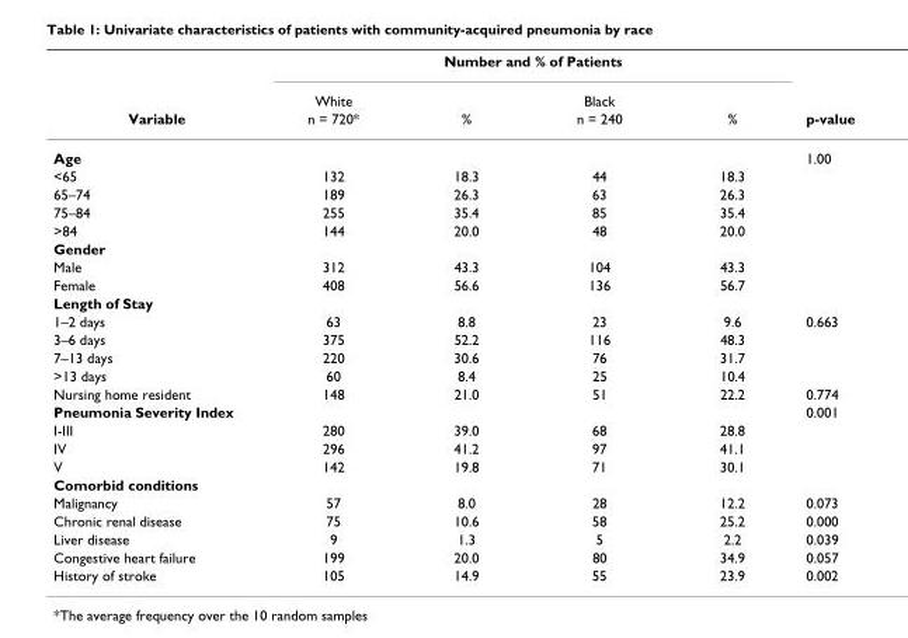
<table><thead><tr><td rowspan="3">Variable</td><td colspan="4">Number and % of Patients</td><td rowspan="3">p-value</td></tr><tr><td rowspan="2">White n = 720*</td><td rowspan="2">%</td><td rowspan="2">Black n = 240</td><td rowspan="2">%</td></tr><tr></tr></thead><tbody><tr><td>Age</td><td></td><td></td><td></td><td></td><td>1.00</td></tr><tr><td>&lt;65</td><td>132</td><td>18.3</td><td>44</td><td>18.3</td><td></td></tr><tr><td>65–74</td><td>189</td><td>26.3</td><td>63</td><td>26.3</td><td></td></tr><tr><td>75–84</td><td>255</td><td>35.4</td><td>85</td><td>35.4</td><td></td></tr><tr><td>&gt;84</td><td>144</td><td>20.0</td><td>48</td><td>20.0</td><td></td></tr><tr><td colspan="6">Gender</td></tr><tr><td>Male</td><td>312</td><td>43.3</td><td>104</td><td>43.3</td><td></td></tr><tr><td>Female</td><td>408</td><td>56.6</td><td>136</td><td>56.7</td><td></td></tr><tr><td colspan="6">Length of Stay</td></tr><tr><td>1–2 days</td><td>63</td><td>8.8</td><td>23</td><td>9.6</td><td>0.663</td></tr><tr><td>3–6 days</td><td>375</td><td>52.2</td><td>116</td><td>48.3</td><td></td></tr><tr><td>7–13 days</td><td>220</td><td>30.6</td><td>76</td><td>31.7</td><td></td></tr><tr><td>&gt;13 days</td><td>60</td><td>8.4</td><td>25</td><td>10.4</td><td></td></tr><tr><td>Nursing home resident</td><td>148</td><td>21.0</td><td>51</td><td>22.2</td><td>0.774</td></tr><tr><td>Pneumonia Severity Index</td><td></td><td></td><td></td><td></td><td>0.001</td></tr><tr><td>I-III</td><td>280</td><td>39.0</td><td>68</td><td>28.8</td><td></td></tr><tr><td>IV</td><td>296</td><td>41.2</td><td>97</td><td>41.1</td><td></td></tr><tr><td>V</td><td>142</td><td>19.8</td><td>71</td><td>30.1</td><td></td></tr><tr><td colspan="6">Comorbid conditions</td></tr><tr><td>Malignancy</td><td>57</td><td>8.0</td><td>28</td><td>12.2</td><td>0.073</td></tr><tr><td>Chronic renal disease</td><td>75</td><td>10.6</td><td>58</td><td>25.2</td><td>0.000</td></tr><tr><td>Liver disease</td><td>9</td><td>1.3</td><td>5</td><td>2.2</td><td>0.039</td></tr><tr><td>Congestive heart failure</td><td>199</td><td>20.0</td><td>80</td><td>34.9</td><td>0.057</td></tr><tr><td>History of stroke</td><td>105</td><td>14.9</td><td>55</td><td>23.9</td><td>0.002</td></tr></tbody></table>